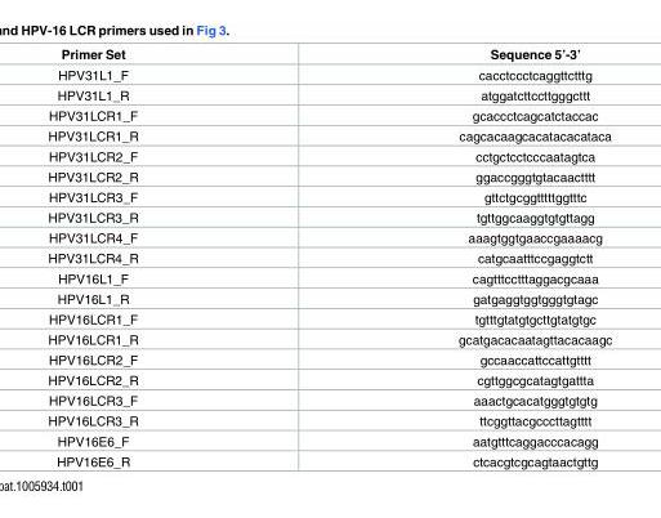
<table><thead><tr><td>Primer Set</td><td>Sequence 5’-3’</td></tr></thead><tbody><tr><td>HPV31L1_F</td><td>cacctccctcaggttctttg</td></tr><tr><td>HPV31L1_R</td><td>atggatcttccttgggcttt</td></tr><tr><td>HPV31LCR1_F</td><td>gcaccctcagcatctaccac</td></tr><tr><td>HPV31LCR1_R</td><td>cagcacaagcacatacacataca</td></tr><tr><td>HPV31LCR2_F</td><td>cctgctcctcccaatagtca</td></tr><tr><td>HPV31LCR2_R</td><td>ggaccgggtgtacaactttt</td></tr><tr><td>HPV31LCR3_F</td><td>gttctgcggtttttggtttc</td></tr><tr><td>HPV31LCR3_R</td><td>tgttggcaaggtgtgttagg</td></tr><tr><td>HPV31LCR4_F</td><td>aaagtggtgaaccgaaaacg</td></tr><tr><td>HPV31LCR4_R</td><td>catgcaatttccgaggtctt</td></tr><tr><td>HPV16L1_F</td><td>cagtttcctttaggacgcaaa</td></tr><tr><td>HPV16L1_R</td><td>gatgaggtggtgggtgtagc</td></tr><tr><td>HPV16LCR1_F</td><td>tgtttgtatgtgcttgtatgtgc</td></tr><tr><td>HPV16LCR1_R</td><td>gcatgacacaatagttacacaagc</td></tr><tr><td>HPV16LCR2_F</td><td>gccaaccattccattgtttt</td></tr><tr><td>HPV16LCR2_R</td><td>cgttggcgcatagtgattta</td></tr><tr><td>HPV16LCR3_F</td><td>aaactgcacatgggtgtgtg</td></tr><tr><td>HPV16LCR3_R</td><td>ttcggttacgcccttagtttt</td></tr><tr><td>HPV16E6_F</td><td>aatgtttcaggacccacagg</td></tr><tr><td>HPV16E6_R</td><td>ctcacgtcgcagtaactgttg</td></tr></tbody></table>